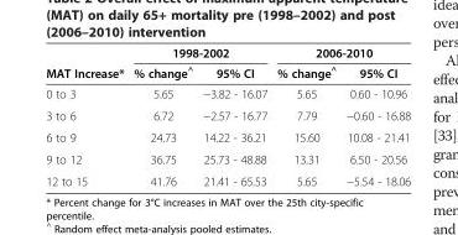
<table><thead><tr><td rowspan="2">MAT Increase*</td><td colspan="2">1998-2002</td><td colspan="2">2006-2010</td></tr><tr><td>% change<sup>^</sup></td><td>95% CI</td><td>% change<sup>^</sup></td><td>95% CI</td></tr></thead><tbody><tr><td>0 to 3</td><td>5.65</td><td>−3.82 - 16.07</td><td>5.65</td><td>0.60 - 10.96</td></tr><tr><td>3 to 6</td><td>6.72</td><td>−2.57 - 16.77</td><td>7.79</td><td>−0.60 - 16.88</td></tr><tr><td>6 to 9</td><td>24.73</td><td>14.22 - 36.21</td><td>15.60</td><td>10.08 - 21.41</td></tr><tr><td>9 to 12</td><td>36.75</td><td>25.73 - 48.88</td><td>13.31</td><td>6.50 - 20.56</td></tr><tr><td>12 to 15</td><td>41.76</td><td>21.41 - 65.53</td><td>5.65</td><td>−5.54 - 18.06</td></tr></tbody></table>